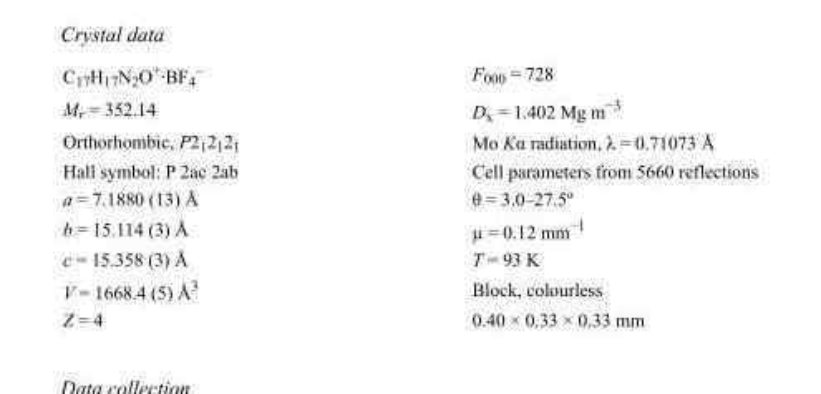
<table><tbody><tr><td>C<sub>17</sub>H<sub>17</sub>N<sub>2</sub>O<sup>+</sup>·BF<sub>4</sub> <sup>–</sup></td><td>F000 = 728</td></tr><tr><td>M<sub>r</sub> = 352.14</td><td>D<sub>x</sub> = 1.402 Mg m<sup>−3</sup></td></tr><tr><td>Orthorhombic, P2<sub>1</sub>2<sub>1</sub>2<sub>1</sub></td><td>Mo Kα radiation, λ = 0.71073 Å</td></tr><tr><td>Hall symbol: P 2ac 2ab</td><td>Cell parameters from 5660 reflections</td></tr><tr><td>a = 7.1880 (13) Å</td><td>θ = 3.0–27.5º</td></tr><tr><td>b = 15.114 (3) Å</td><td>µ = 0.12 mm<sup>−1</sup></td></tr><tr><td>c = 15.358 (3) Å</td><td>T = 93 K</td></tr><tr><td>V = 1668.4 (5) Å<sup>3</sup></td><td>Block, colourless</td></tr><tr><td>Z = 4</td><td>0.40 × 0.33 × 0.33 mm</td></tr></tbody></table>